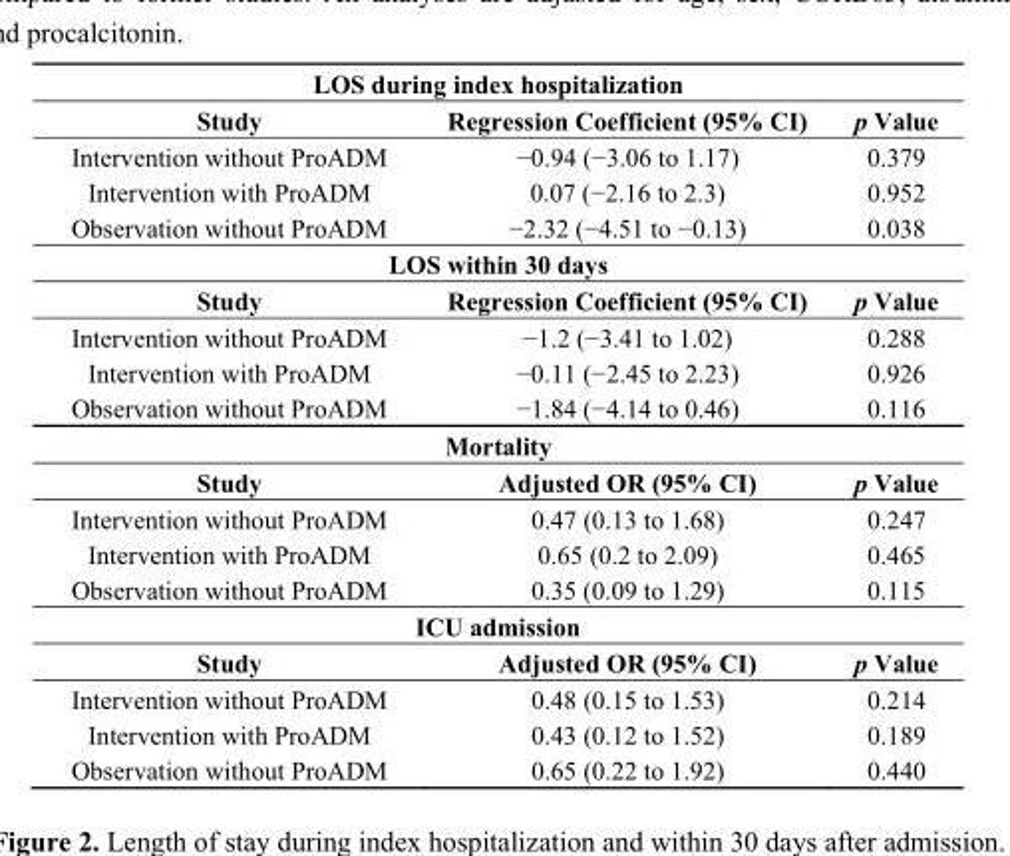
<table><thead><tr><td colspan="3">LOS during index hospitalization</td></tr><tr><td>Study</td><td>Regression Coefficient (95% CI)</td><td>p Value</td></tr></thead><tbody><tr><td>Intervention without ProADM</td><td>−0.94 (−3.06 to 1.17)</td><td>0.379</td></tr><tr><td>Intervention with ProADM</td><td>0.07 (−2.16 to 2.3)</td><td>0.952</td></tr><tr><td>Observation without ProADM</td><td>−2.32 (−4.51 to −0.13)</td><td>0.038</td></tr><tr><td colspan="3">LOS within 30 days</td></tr><tr><td>Study</td><td>Regression Coefficient (95% CI)</td><td>p Value</td></tr><tr><td>Intervention without ProADM</td><td>−1.2 (−3.41 to 1.02)</td><td>0.288</td></tr><tr><td>Intervention with ProADM</td><td>−0.11 (−2.45 to 2.23)</td><td>0.926</td></tr><tr><td>Observation without ProADM</td><td>−1.84 (−4.14 to 0.46)</td><td>0.116</td></tr><tr><td colspan="3">Mortality</td></tr><tr><td>Study</td><td>Adjusted OR (95% CI)</td><td>p Value</td></tr><tr><td>Intervention without ProADM</td><td>0.47 (0.13 to 1.68)</td><td>0.247</td></tr><tr><td>Intervention with ProADM</td><td>0.65 (0.2 to 2.09)</td><td>0.465</td></tr><tr><td>Observation without ProADM</td><td>0.35 (0.09 to 1.29)</td><td>0.115</td></tr><tr><td colspan="3">ICU admission</td></tr><tr><td>Study</td><td>Adjusted OR (95% CI)</td><td>p Value</td></tr><tr><td>Intervention without ProADM</td><td>0.48 (0.15 to 1.53)</td><td>0.214</td></tr><tr><td>Intervention with ProADM</td><td>0.43 (0.12 to 1.52)</td><td>0.189</td></tr><tr><td>Observation without ProADM</td><td>0.65 (0.22 to 1.92)</td><td>0.440</td></tr></tbody></table>